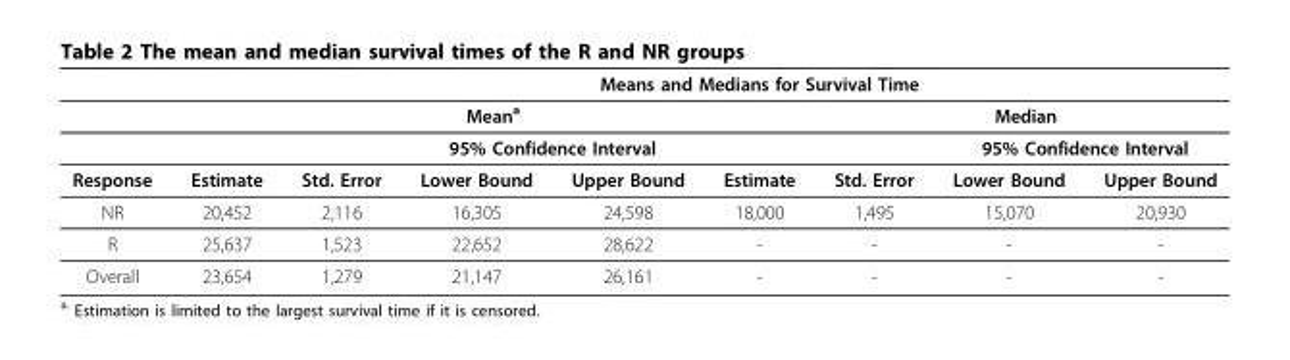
<table><thead><tr><td rowspan="4">Response</td><td rowspan="4">Estimate</td><td colspan="7">Means and Medians for Survival Time</td></tr><tr><td colspan="3">Mean<sup>a</sup></td><td rowspan="3">Estimate</td><td colspan="3">Median</td></tr><tr><td rowspan="2">Std. Error</td><td colspan="2">95% Confidence Interval</td><td rowspan="2">Std. Error</td><td colspan="2">95% Confidence Interval</td></tr><tr><td>Lower Bound</td><td>Upper Bound</td><td>Lower Bound</td><td>Upper Bound</td></tr></thead><tbody><tr><td>NR</td><td>20,452</td><td>2,116</td><td>16,305</td><td>24,598</td><td>18,000</td><td>1,495</td><td>15,070</td><td>20,930</td></tr><tr><td>R</td><td>25,637</td><td>1,523</td><td>22,652</td><td>28,622</td><td>-</td><td>-</td><td>-</td><td>-</td></tr><tr><td>Overall</td><td>23,654</td><td>1,279</td><td>21,147</td><td>26,161</td><td>-</td><td>-</td><td>-</td><td>-</td></tr></tbody></table>